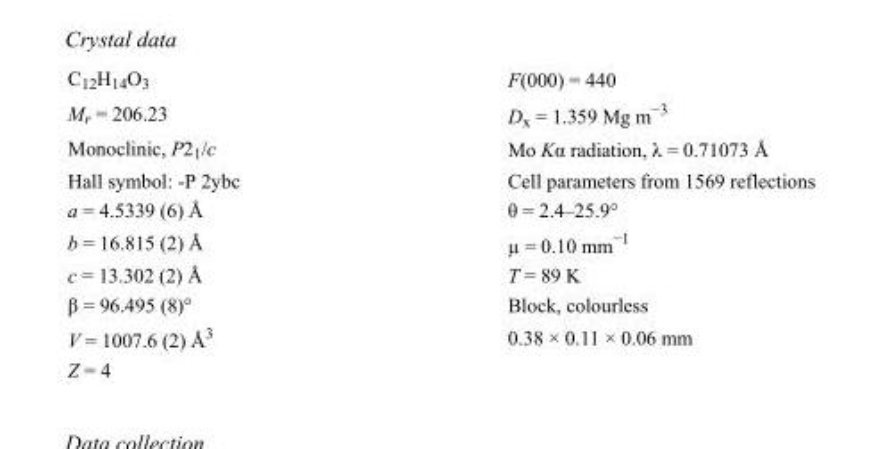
<table><tbody><tr><td>C<sub>12</sub>H<sub>14</sub>O<sub>3</sub></td><td>F(000) = 440</td></tr><tr><td>M<sub>r</sub> = 206.23</td><td>D<sub>x</sub> = 1.359 Mg m<sup>−3</sup></td></tr><tr><td>Monoclinic, P2<sub>1</sub>/c</td><td>Mo Kα radiation, λ = 0.71073 Å</td></tr><tr><td>Hall symbol: -P 2ybc</td><td>Cell parameters from 1569 reflections</td></tr><tr><td>a = 4.5339 (6) Å</td><td>θ = 2.4–25.9°</td></tr><tr><td>b = 16.815 (2) Å</td><td>µ = 0.10 mm<sup>−1</sup></td></tr><tr><td>c = 13.302 (2) Å</td><td>T = 89 K</td></tr><tr><td>β = 96.495 (8)°</td><td>Block, colourless</td></tr><tr><td>V = 1007.6 (2) Å<sup>3</sup></td><td>0.38 × 0.11 × 0.06 mm</td></tr><tr><td>Z = 4</td><td></td></tr></tbody></table>